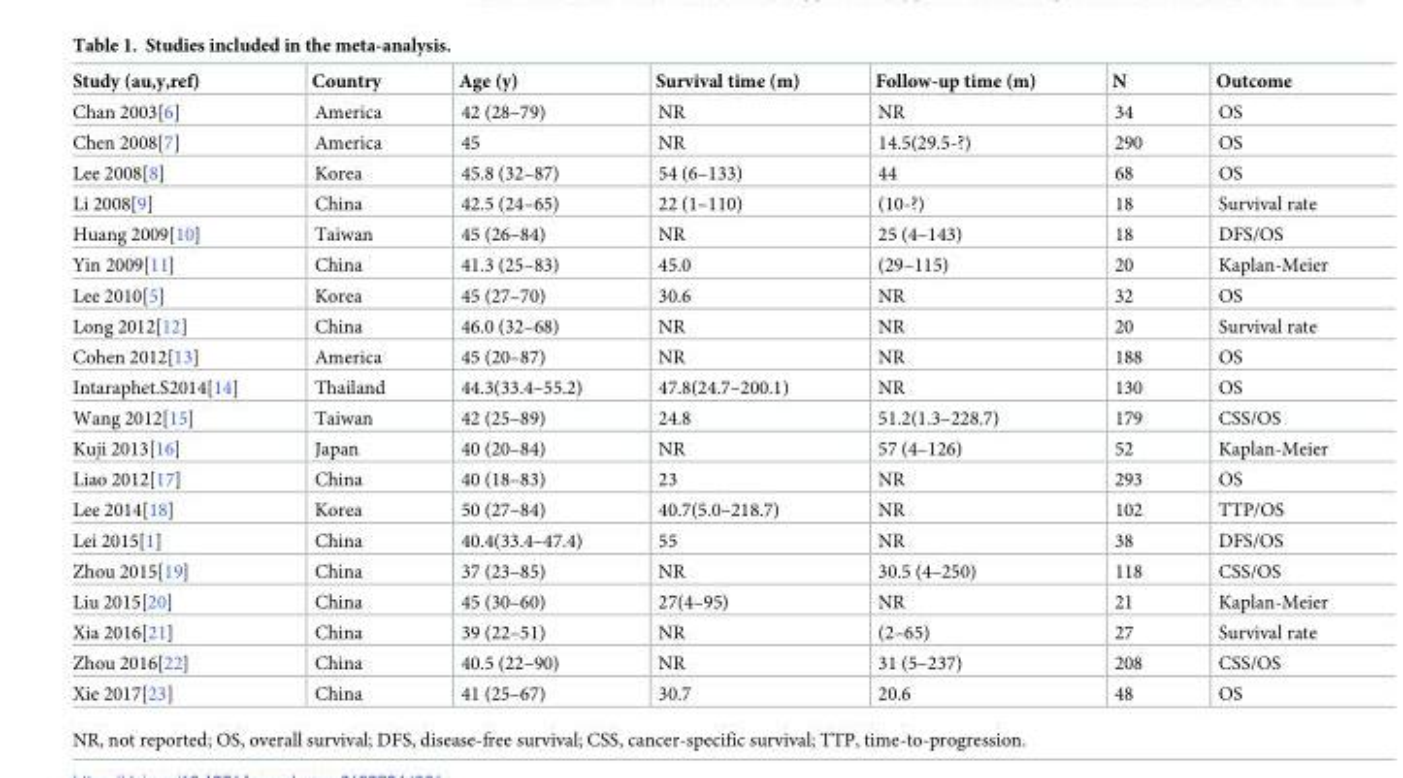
<table><thead><tr><td>Study (au,y,ref)</td><td>Country</td><td>Age (y)</td><td>Survival time (m)</td><td>Follow-up time (m)</td><td>N</td><td>Outcome</td></tr></thead><tbody><tr><td>Chan 2003[6]</td><td>America</td><td>42 (28–79)</td><td>NR</td><td>NR</td><td>34</td><td>OS</td></tr><tr><td>Chen 2008[7]</td><td>America</td><td>45</td><td>NR</td><td>14.5(29.5-?)</td><td>290</td><td>OS</td></tr><tr><td>Lee 2008[8]</td><td>Korea</td><td>45.8 (32–87)</td><td>54 (6–133)</td><td>44</td><td>68</td><td>OS</td></tr><tr><td>Li 2008[9]</td><td>China</td><td>42.5 (24–65)</td><td>22 (1–110)</td><td>(10-?)</td><td>18</td><td>Survival rate</td></tr><tr><td>Huang 2009[10]</td><td>Taiwan</td><td>45 (26–84)</td><td>NR</td><td>25 (4–143)</td><td>18</td><td>DFS/OS</td></tr><tr><td>Yin 2009[11]</td><td>China</td><td>41.3 (25–83)</td><td>45.0</td><td>(29–115)</td><td>20</td><td>Kaplan-Meier</td></tr><tr><td>Lee 2010[5]</td><td>Korea</td><td>45 (27–70)</td><td>30.6</td><td>NR</td><td>32</td><td>OS</td></tr><tr><td>Long 2012[12]</td><td>China</td><td>46.0 (32–68)</td><td>NR</td><td>NR</td><td>20</td><td>Survival rate</td></tr><tr><td>Cohen 2012[13]</td><td>America</td><td>45 (20–87)</td><td>NR</td><td>NR</td><td>188</td><td>OS</td></tr><tr><td>Intaraphet.S2014[14]</td><td>Thailand</td><td>44.3(33.4–55.2)</td><td>47.8(24.7–200.1)</td><td>NR</td><td>130</td><td>OS</td></tr><tr><td>Wang 2012[15]</td><td>Taiwan</td><td>42 (25–89)</td><td>24.8</td><td>51.2(1.3–228.7)</td><td>179</td><td>CSS/OS</td></tr><tr><td>Kuji 2013[16]</td><td>Japan</td><td>40 (20–84)</td><td>NR</td><td>57 (4–126)</td><td>52</td><td>Kaplan-Meier</td></tr><tr><td>Liao 2012[17]</td><td>China</td><td>40 (18–83)</td><td>23</td><td>NR</td><td>293</td><td>OS</td></tr><tr><td>Lee 2014[18]</td><td>Korea</td><td>50 (27–84)</td><td>40.7(5.0–218.7)</td><td>NR</td><td>102</td><td>TTP/OS</td></tr><tr><td>Lei 2015[1]</td><td>China</td><td>40.4(33.4–47.4)</td><td>55</td><td>NR</td><td>38</td><td>DFS/OS</td></tr><tr><td>Zhou 2015[19]</td><td>China</td><td>37 (23–85)</td><td>NR</td><td>30.5 (4–250)</td><td>118</td><td>CSS/OS</td></tr><tr><td>Liu 2015[20]</td><td>China</td><td>45 (30–60)</td><td>27(4–95)</td><td>NR</td><td>21</td><td>Kaplan-Meier</td></tr><tr><td>Xia 2016[21]</td><td>China</td><td>39 (22–51)</td><td>NR</td><td>(2–65)</td><td>27</td><td>Survival rate</td></tr><tr><td>Zhou 2016[22]</td><td>China</td><td>40.5 (22–90)</td><td>NR</td><td>31 (5–237)</td><td>208</td><td>CSS/OS</td></tr><tr><td>Xie 2017[23]</td><td>China</td><td>41 (25–67)</td><td>30.7</td><td>20.6</td><td>48</td><td>OS</td></tr></tbody></table>